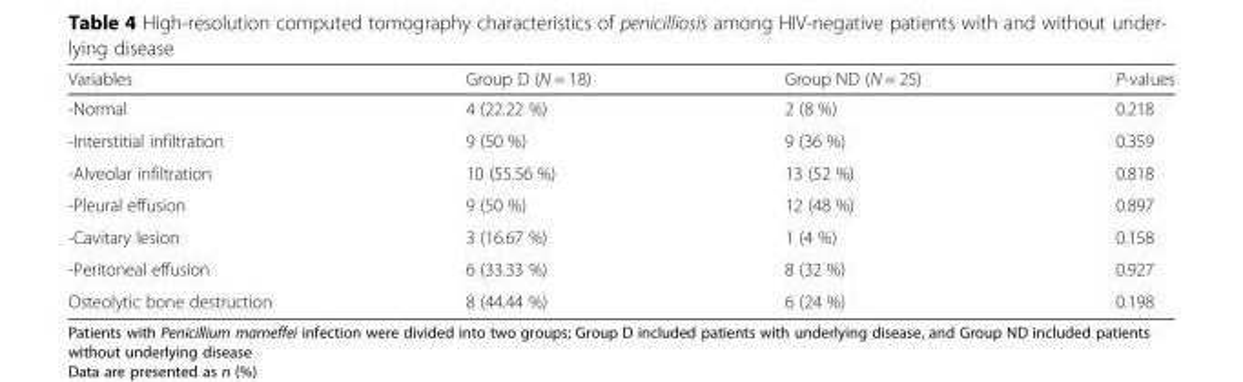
<table><thead><tr><td>Variables</td><td>Group D (N = 18)</td><td>Group ND (N = 25)</td><td>P-values</td></tr></thead><tbody><tr><td>-Normal</td><td>4 (22.22 %)</td><td>2 (8 %)</td><td>0.218</td></tr><tr><td>-Interstitial infiltration</td><td>9 (50 %)</td><td>9 (36 %)</td><td>0.359</td></tr><tr><td>-Alveolar infiltration</td><td>10 (55.56 %)</td><td>13 (52 %)</td><td>0.818</td></tr><tr><td>-Pleural effusion</td><td>9 (50 %)</td><td>12 (48 %)</td><td>0.897</td></tr><tr><td>-Cavitary lesion</td><td>3 (16.67 %)</td><td>1 (4 %)</td><td>0.158</td></tr><tr><td>-Peritoneal effusion</td><td>6 (33.33 %)</td><td>8 (32 %)</td><td>0.927</td></tr><tr><td>Osteolytic bone destruction</td><td>8 (44.44 %)</td><td>6 (24 %)</td><td>0.198</td></tr></tbody></table>